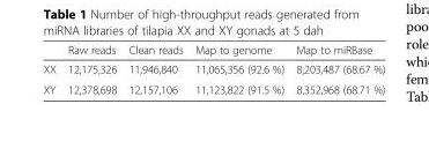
<table><thead><tr><td></td><td>Raw reads</td><td>Clean reads</td><td>Map to genome</td><td>Map to miRBase</td></tr></thead><tbody><tr><td>XX</td><td>12,175,326</td><td>11,946,840</td><td>11,065,356 (92.6 %)</td><td>8,203,487 (68.67 %)</td></tr><tr><td>XY</td><td>12,378,698</td><td>12,157,106</td><td>11,123,822 (91.5 %)</td><td>8,352,968 (68.71 %)</td></tr></tbody></table>